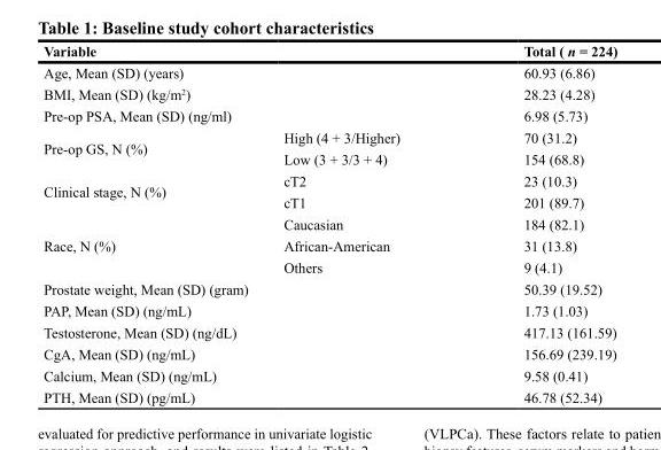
<table><thead><tr><td>Variable</td><td></td><td>Total ( n = 224)</td></tr></thead><tbody><tr><td>Age, Mean (SD) (years)</td><td></td><td>60.93 (6.86)</td></tr><tr><td>BMI, Mean (SD) (kg/m<sup>2</sup>)</td><td></td><td>28.23 (4.28)</td></tr><tr><td>Pre-op PSA, Mean (SD) (ng/ml)</td><td></td><td>6.98 (5.73)</td></tr><tr><td rowspan="2">Pre-op GS, N (%)</td><td>High (4 + 3/Higher)</td><td>70 (31.2)</td></tr><tr><td>Low (3 + 3/3 + 4)</td><td>154 (68.8)</td></tr><tr><td rowspan="2">Clinical stage, N (%)</td><td>cT2</td><td>23 (10.3)</td></tr><tr><td>cT1</td><td>201 (89.7)</td></tr><tr><td rowspan="3">Race, N (%)</td><td>Caucasian</td><td>184 (82.1)</td></tr><tr><td>African-American</td><td>31 (13.8)</td></tr><tr><td>Others</td><td>9 (4.1)</td></tr><tr><td>Prostate weight, Mean (SD) (gram)</td><td></td><td>50.39 (19.52)</td></tr><tr><td>PAP, Mean (SD) (ng/mL)</td><td></td><td>1.73 (1.03)</td></tr><tr><td>Testosterone, Mean (SD) (ng/dL)</td><td></td><td>417.13 (161.59)</td></tr><tr><td>CgA, Mean (SD) (ng/mL)</td><td></td><td>156.69 (239.19)</td></tr><tr><td>Calcium, Mean (SD) (ng/mL)</td><td></td><td>9.58 (0.41)</td></tr><tr><td>PTH, Mean (SD) (pg/mL)</td><td></td><td>46.78 (52.34)</td></tr></tbody></table>